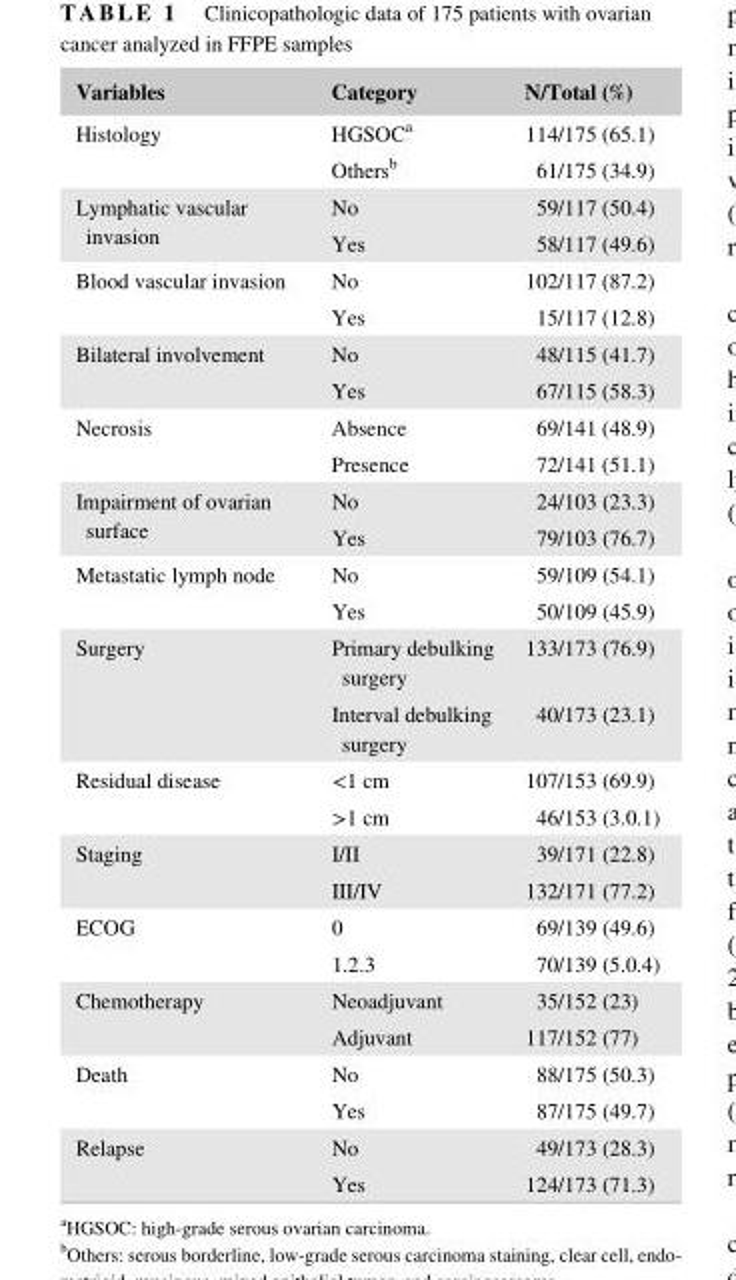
<table><thead><tr><td>Variables</td><td>Category</td><td>N/Total (%)</td></tr></thead><tbody><tr><td rowspan="2">Histology</td><td>HGSOC<sup>a</sup></td><td>114/175 (65.1)</td></tr><tr><td>Others<sup>b</sup></td><td>61/175 (34.9)</td></tr><tr><td rowspan="2">Lymphatic vascular invasion</td><td>No</td><td>59/117 (50.4)</td></tr><tr><td>Yes</td><td>58/117 (49.6)</td></tr><tr><td rowspan="2">Blood vascular invasion</td><td>No</td><td>102/117 (87.2)</td></tr><tr><td>Yes</td><td>15/117 (12.8)</td></tr><tr><td rowspan="2">Bilateral involvement</td><td>No</td><td>48/115 (41.7)</td></tr><tr><td>Yes</td><td>67/115 (58.3)</td></tr><tr><td rowspan="2">Necrosis</td><td>Absence</td><td>69/141 (48.9)</td></tr><tr><td>Presence</td><td>72/141 (51.1)</td></tr><tr><td rowspan="2">Impairment of ovarian surface</td><td>No</td><td>24/103 (23.3)</td></tr><tr><td>Yes</td><td>79/103 (76.7)</td></tr><tr><td rowspan="2">Metastatic lymph node</td><td>No</td><td>59/109 (54.1)</td></tr><tr><td>Yes</td><td>50/109 (45.9)</td></tr><tr><td rowspan="2">Surgery</td><td>Primary debulking surgery</td><td>133/173 (76.9)</td></tr><tr><td>Interval debulking surgery</td><td>40/173 (23.1)</td></tr><tr><td rowspan="2">Residual disease</td><td>&lt;1 cm</td><td>107/153 (69.9)</td></tr><tr><td>&gt;1 cm</td><td>46/153 (3.0.1)</td></tr><tr><td rowspan="2">Staging</td><td>I/II</td><td>39/171 (22.8)</td></tr><tr><td>III/IV</td><td>132/171 (77.2)</td></tr><tr><td rowspan="2">ECOG</td><td>0</td><td>69/139 (49.6)</td></tr><tr><td>1.2.3</td><td>70/139 (5.0.4)</td></tr><tr><td rowspan="2">Chemotherapy</td><td>Neoadjuvant</td><td>35/152 (23)</td></tr><tr><td>Adjuvant</td><td>117/152 (77)</td></tr><tr><td rowspan="2">Death</td><td>No</td><td>88/175 (50.3)</td></tr><tr><td>Yes</td><td>87/175 (49.7)</td></tr><tr><td rowspan="2">Relapse</td><td>No</td><td>49/173 (28.3)</td></tr><tr><td>Yes</td><td>124/173 (71.3)</td></tr></tbody></table>